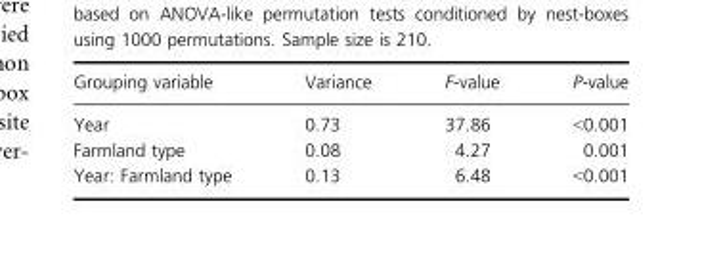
<table><thead><tr><td>Grouping variable</td><td>Variance</td><td>F-value</td><td>P-value</td></tr></thead><tbody><tr><td>Year</td><td>0.73</td><td>37.86</td><td>&lt;0.001</td></tr><tr><td>Farmland type</td><td>0.08</td><td>4.27</td><td>0.001</td></tr><tr><td>Year: Farmland type</td><td>0.13</td><td>6.48</td><td>&lt;0.001</td></tr></tbody></table>